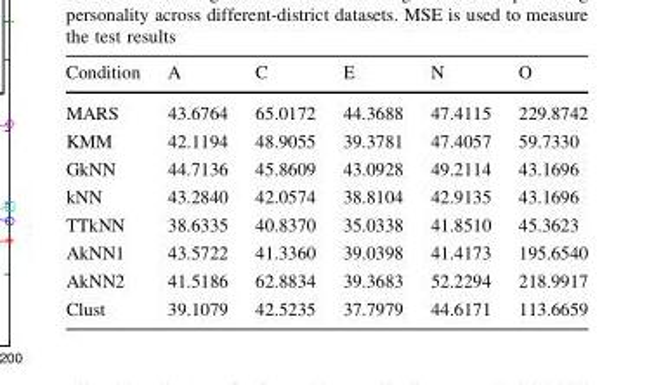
<table><thead><tr><td>Condition</td><td>A</td><td>C</td><td>E</td><td>N</td><td>O</td></tr></thead><tbody><tr><td>MARS</td><td>43.6764</td><td>65.0172</td><td>44.3688</td><td>47.4115</td><td>229.8742</td></tr><tr><td>KMM</td><td>42.1194</td><td>48.9055</td><td>39.3781</td><td>47.4057</td><td>59.7330</td></tr><tr><td>GkNN</td><td>44.7136</td><td>45.8609</td><td>43.0928</td><td>49.2114</td><td>43.1696</td></tr><tr><td>kNN</td><td>43.2840</td><td>42.0574</td><td>38.8104</td><td>42.9135</td><td>43.1696</td></tr><tr><td>TTkNN</td><td>38.6335</td><td>40.8370</td><td>35.0338</td><td>41.8510</td><td>45.3623</td></tr><tr><td>AkNN1</td><td>43.5722</td><td>41.3360</td><td>39.0398</td><td>41.4173</td><td>195.6540</td></tr><tr><td>AkNN2</td><td>41.5186</td><td>62.8834</td><td>39.3683</td><td>52.2294</td><td>218.9917</td></tr><tr><td>Clust</td><td>39.1079</td><td>42.5235</td><td>37.7979</td><td>44.6171</td><td>113.6659</td></tr></tbody></table>